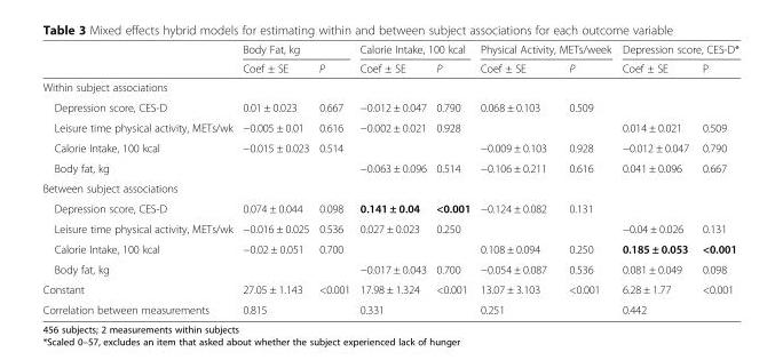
<table><thead><tr><td rowspan="2"></td><td colspan="2">Body Fat, kg</td><td colspan="2">Calorie Intake, 100 kcal</td><td colspan="2">Physical Activity, METs/week</td><td colspan="2">Depression score, CES-D*</td></tr><tr><td>Coef ± SE</td><td>P</td><td>Coef ± SE</td><td>P</td><td>Coef ± SE</td><td>P</td><td>Coef ± SE</td><td>P</td></tr></thead><tbody><tr><td colspan="9">Within subject associations</td></tr><tr><td>Depression score, CES-D</td><td>0.01 ± 0.023</td><td>0.667</td><td>−0.012 ± 0.047</td><td>0.790</td><td>0.068 ± 0.103</td><td>0.509</td><td></td><td></td></tr><tr><td>Leisure time physical activity, METs/wk</td><td>−0.005 ± 0.01</td><td>0.616</td><td>−0.002 ± 0.021</td><td>0.928</td><td></td><td></td><td>0.014 ± 0.021</td><td>0.509</td></tr><tr><td>Calorie Intake, 100 kcal</td><td>−0.015 ± 0.023</td><td>0.514</td><td></td><td></td><td>−0.009 ± 0.103</td><td>0.928</td><td>−0.012 ± 0.047</td><td>0.790</td></tr><tr><td>Body fat, kg</td><td></td><td></td><td>−0.063 ± 0.096</td><td>0.514</td><td>−0.106 ± 0.211</td><td>0.616</td><td>0.041 ± 0.096</td><td>0.667</td></tr><tr><td colspan="9">Between subject associations</td></tr><tr><td>Depression score, CES-D</td><td>0.074 ± 0.044</td><td>0.098</td><td>0.141 ± 0.04</td><td>&lt;0.001</td><td>−0.124 ± 0.082</td><td>0.131</td><td></td><td></td></tr><tr><td>Leisure time physical activity, METs/wk</td><td>−0.016 ± 0.025</td><td>0.536</td><td>0.027 ± 0.023</td><td>0.250</td><td></td><td></td><td>−0.04 ± 0.026</td><td>0.131</td></tr><tr><td>Calorie Intake, 100 kcal</td><td>−0.02 ± 0.051</td><td>0.700</td><td></td><td></td><td>0.108 ± 0.094</td><td>0.250</td><td>0.185 ± 0.053</td><td>&lt;0.001</td></tr><tr><td>Body fat, kg</td><td></td><td></td><td>−0.017 ± 0.043</td><td>0.700</td><td>−0.054 ± 0.087</td><td>0.536</td><td>0.081 ± 0.049</td><td>0.098</td></tr><tr><td>Constant</td><td>27.05 ± 1.143</td><td>&lt;0.001</td><td>17.98 ± 1.324</td><td>&lt;0.001</td><td>13.07 ± 3.103</td><td>&lt;0.001</td><td>6.28 ± 1.77</td><td>&lt;0.001</td></tr><tr><td>Correlation between measurements</td><td colspan="2">0.815</td><td colspan="2">0.331</td><td colspan="2">0.251</td><td colspan="2">0.442</td></tr></tbody></table>